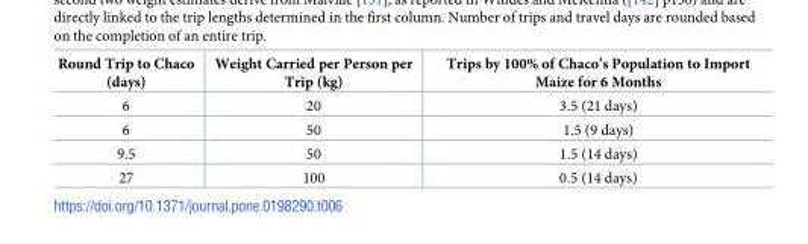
<table><thead><tr><td>Round Trip to Chaco (days)</td><td>Weight Carried per Person per Trip (kg)</td><td>Trips by 100% of Chaco’s Population to Import Maize for 6 Months</td></tr></thead><tbody><tr><td>6</td><td>20</td><td>3.5 (21 days)</td></tr><tr><td>6</td><td>50</td><td>1.5 (9 days)</td></tr><tr><td>9.5</td><td>50</td><td>1.5 (14 days)</td></tr><tr><td>27</td><td>100</td><td>0.5 (14 days)</td></tr></tbody></table>